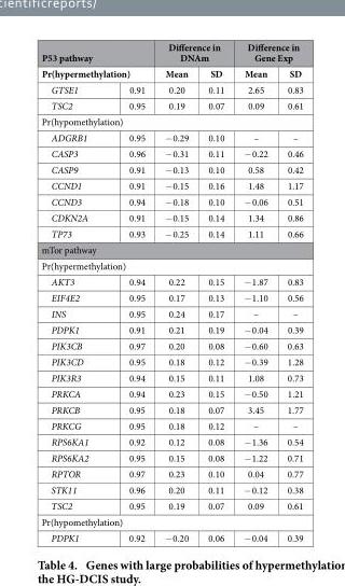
<table><thead><tr><td rowspan="2" colspan="2">P53 pathway Pr(hypermethylation)</td><td colspan="2">Difference in DNAm</td><td colspan="2">Difference in Gene Exp</td></tr><tr><td rowspan="2">Mean 0.20</td><td rowspan="2">SD 0.11</td><td rowspan="2">Mean 2.65</td><td rowspan="2">SD 0.83</td></tr><tr><td>GTSE1</td><td>0.91</td></tr></thead><tbody><tr><td>TSC2</td><td>0.95</td><td>0.19</td><td>0.07</td><td>0.09</td><td>0.61</td></tr><tr><td colspan="6">Pr(hypomethylation)</td></tr><tr><td>ADGRB1</td><td>0.95</td><td>− 0.29</td><td>0.10</td><td>–</td><td>–</td></tr><tr><td>CASP3</td><td>0.96</td><td>− 0.31</td><td>0.11</td><td>− 0.22</td><td>0.46</td></tr><tr><td>CASP9</td><td>0.91</td><td>− 0.13</td><td>0.10</td><td>0.58</td><td>0.42</td></tr><tr><td>CCND1</td><td>0.91</td><td>− 0.15</td><td>0.16</td><td>1.48</td><td>1.17</td></tr><tr><td>CCND3</td><td>0.94</td><td>− 0.18</td><td>0.10</td><td>− 0.06</td><td>0.51</td></tr><tr><td>CDKN2A</td><td>0.91</td><td>− 0.15</td><td>0.14</td><td>1.34</td><td>0.86</td></tr><tr><td>TP73</td><td>0.93</td><td>− 0.25</td><td>0.14</td><td>1.11</td><td>0.66</td></tr><tr><td colspan="6">mTor pathway</td></tr><tr><td colspan="6">Pr(hypermethylation)</td></tr><tr><td>AKT3</td><td>0.94</td><td>0.22</td><td>0.15</td><td>− 1.87</td><td>0.83</td></tr><tr><td>EIF4E2</td><td>0.95</td><td>0.17</td><td>0.13</td><td>− 1.10</td><td>0.56</td></tr><tr><td>INS</td><td>0.95</td><td>0.24</td><td>0.17</td><td>–</td><td>–</td></tr><tr><td>PDPK1</td><td>0.91</td><td>0.21</td><td>0.19</td><td>− 0.04</td><td>0.39</td></tr><tr><td>PIK3CB</td><td>0.97</td><td>0.20</td><td>0.08</td><td>− 0.60</td><td>0.63</td></tr><tr><td>PIK3CD</td><td>0.95</td><td>0.18</td><td>0.12</td><td>− 0.39</td><td>1.28</td></tr><tr><td>PIK3R3</td><td>0.94</td><td>0.15</td><td>0.11</td><td>1.08</td><td>0.73</td></tr><tr><td>PRKCA</td><td>0.94</td><td>0.23</td><td>0.15</td><td>− 0.50</td><td>1.21</td></tr><tr><td>PRKCB</td><td>0.95</td><td>0.18</td><td>0.07</td><td>3.45</td><td>1.77</td></tr><tr><td>PRKCG</td><td>0.95</td><td>0.18</td><td>0.12</td><td>–</td><td>–</td></tr><tr><td>RPS6KA1</td><td>0.92</td><td>0.12</td><td>0.08</td><td>− 1.36</td><td>0.54</td></tr><tr><td>RPS6KA2</td><td>0.95</td><td>0.15</td><td>0.08</td><td>− 1.22</td><td>0.71</td></tr><tr><td>RPTOR</td><td>0.97</td><td>0.23</td><td>0.10</td><td>0.04</td><td>0.77</td></tr><tr><td>STK11</td><td>0.96</td><td>0.20</td><td>0.11</td><td>− 0.12</td><td>0.38</td></tr><tr><td>TSC2</td><td>0.95</td><td>0.19</td><td>0.07</td><td>0.09</td><td>0.61</td></tr><tr><td colspan="6">Pr(hypomethylation)</td></tr><tr><td>PDPK1</td><td>0.92</td><td>− 0.20</td><td>0.06</td><td>− 0.04</td><td>0.39</td></tr></tbody></table>